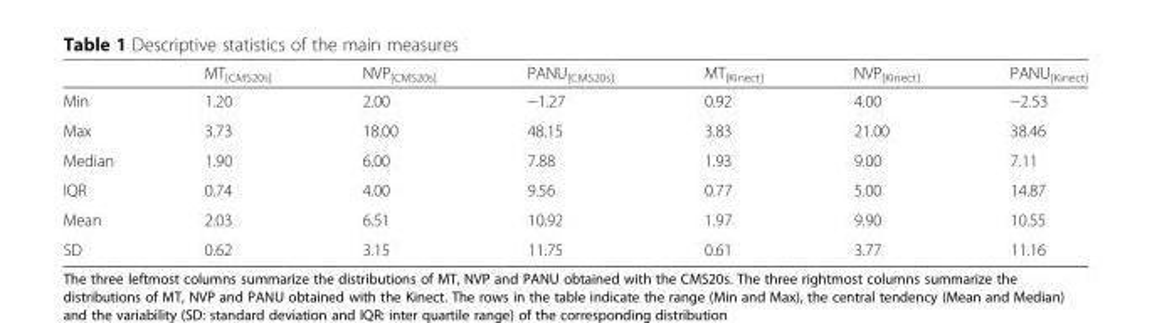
<table><thead><tr><td></td><td>MT<sub>[CMS20s]</sub></td><td>NVP<sub>[CMS20s]</sub></td><td>PANU<sub>[CMS20s]</sub></td><td>MT<sub>[Kinect]</sub></td><td>NVP<sub>[Kinect]</sub></td><td>PANU<sub>[Kinect]</sub></td></tr></thead><tbody><tr><td>Min</td><td>1.20</td><td>2.00</td><td>−1.27</td><td>0.92</td><td>4.00</td><td>−2.53</td></tr><tr><td>Max</td><td>3.73</td><td>18.00</td><td>48.15</td><td>3.83</td><td>21.00</td><td>38.46</td></tr><tr><td>Median</td><td>1.90</td><td>6.00</td><td>7.88</td><td>1.93</td><td>9.00</td><td>7.11</td></tr><tr><td>IQR</td><td>0.74</td><td>4.00</td><td>9.56</td><td>0.77</td><td>5.00</td><td>14.87</td></tr><tr><td>Mean</td><td>2.03</td><td>6.51</td><td>10.92</td><td>1.97</td><td>9.90</td><td>10.55</td></tr><tr><td>SD</td><td>0.62</td><td>3.15</td><td>11.75</td><td>0.61</td><td>3.77</td><td>11.16</td></tr></tbody></table>